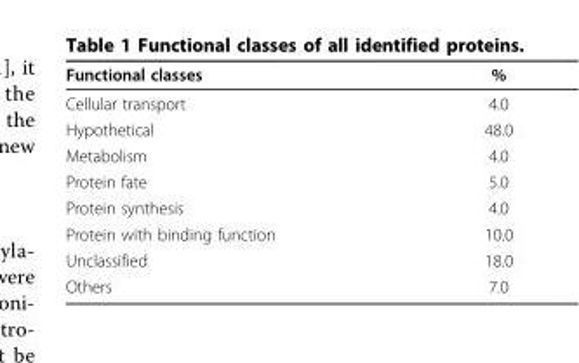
<table><thead><tr><td>Functional classes</td><td>%</td></tr></thead><tbody><tr><td>Cellular transport</td><td>4.0</td></tr><tr><td>Hypothetical</td><td>48.0</td></tr><tr><td>Metabolism</td><td>4.0</td></tr><tr><td>Protein fate</td><td>5.0</td></tr><tr><td>Protein synthesis</td><td>4.0</td></tr><tr><td>Protein with binding function</td><td>10.0</td></tr><tr><td>Unclassified</td><td>18.0</td></tr><tr><td>Others</td><td>7.0</td></tr></tbody></table>